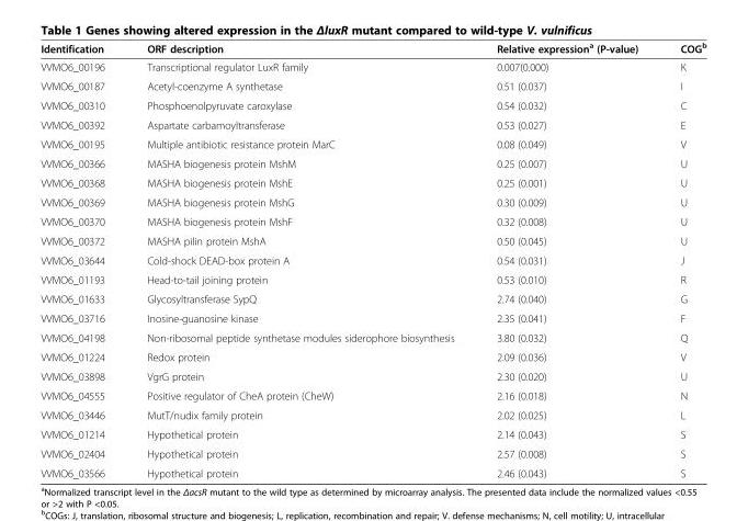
<table><thead><tr><td>Identification</td><td>ORF description</td><td>Relative expression<sup>a</sup> (P-value)</td><td>COG<sup>b</sup></td></tr></thead><tbody><tr><td>VVMO6_00196</td><td>Transcriptional regulator LuxR family</td><td>0.007(0.000)</td><td>K</td></tr><tr><td>VVMO6_00187</td><td>Acetyl-coenzyme A synthetase</td><td>0.51 (0.037)</td><td>I</td></tr><tr><td>VVMO6_00310</td><td>Phosphoenolpyruvate caroxylase</td><td>0.54 (0.032)</td><td>C</td></tr><tr><td>VVMO6_00392</td><td>Aspartate carbamoyltransferase</td><td>0.53 (0.027)</td><td>E</td></tr><tr><td>VVMO6_00195</td><td>Multiple antibiotic resistance protein MarC</td><td>0.08 (0.049)</td><td>V</td></tr><tr><td>VVMO6_00366</td><td>MASHA biogenesis protein MshM</td><td>0.25 (0.007)</td><td>U</td></tr><tr><td>VVMO6_00368</td><td>MASHA biogenesis protein MshE</td><td>0.25 (0.001)</td><td>U</td></tr><tr><td>VVMO6_00369</td><td>MASHA biogenesis protein MshG</td><td>0.30 (0.009)</td><td>U</td></tr><tr><td>VVMO6_00370</td><td>MASHA biogenesis protein MshF</td><td>0.32 (0.008)</td><td>U</td></tr><tr><td>VVMO6_00372</td><td>MASHA pilin protein MshA</td><td>0.50 (0.045)</td><td>U</td></tr><tr><td>VVMO6_03644</td><td>Cold-shock DEAD-box protein A</td><td>0.54 (0.031)</td><td>J</td></tr><tr><td>VVMO6_01193</td><td>Head-to-tail joining protein</td><td>0.53 (0.010)</td><td>R</td></tr><tr><td>VVMO6_01633</td><td>Glycosyltransferase SypQ</td><td>2.74 (0.040)</td><td>G</td></tr><tr><td>VVMO6_03716</td><td>Inosine-guanosine kinase</td><td>2.35 (0.041)</td><td>F</td></tr><tr><td>VVMO6_04198</td><td>Non-ribosomal peptide synthetase modules siderophore biosynthesis</td><td>3.80 (0.032)</td><td>Q</td></tr><tr><td>VVMO6_01224</td><td>Redox protein</td><td>2.09 (0.036)</td><td>V</td></tr><tr><td>VVMO6_03898</td><td>VgrG protein</td><td>2.30 (0.020)</td><td>U</td></tr><tr><td>VVMO6_04555</td><td>Positive regulator of CheA protein (CheW)</td><td>2.16 (0.018)</td><td>N</td></tr><tr><td>VVMO6_03446</td><td>MutT/nudix family protein</td><td>2.02 (0.025)</td><td>L</td></tr><tr><td>VVMO6_01214</td><td>Hypothetical protein</td><td>2.14 (0.043)</td><td>S</td></tr><tr><td>VVMO6_02404</td><td>Hypothetical protein</td><td>2.57 (0.008)</td><td>S</td></tr><tr><td>VVMO6_03566</td><td>Hypothetical protein</td><td>2.46 (0.043)</td><td>S</td></tr></tbody></table>